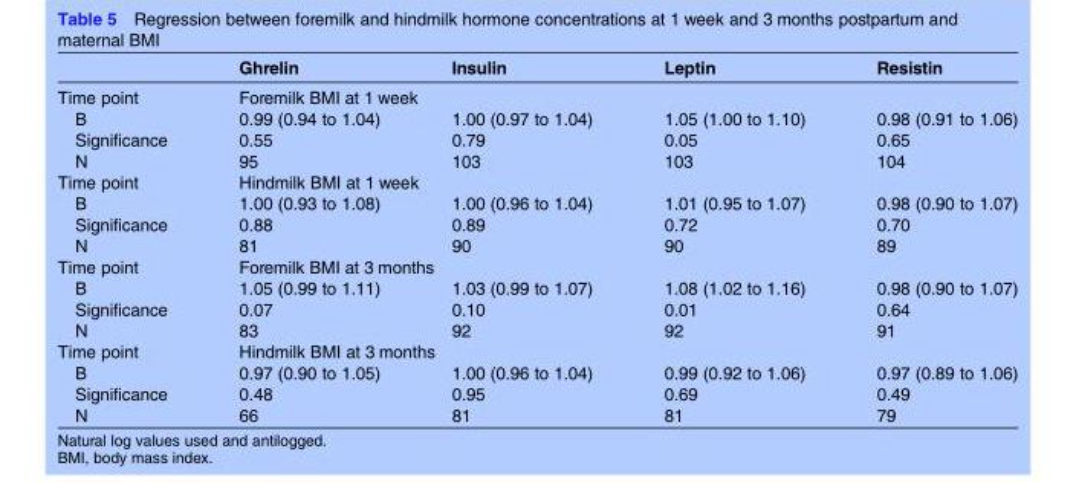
<table><thead><tr><td></td><td>Ghrelin</td><td>Insulin</td><td>Leptin</td><td>Resistin</td></tr></thead><tbody><tr><td>Time point</td><td colspan="4">Foremilk BMI at 1 week</td></tr><tr><td>B</td><td>0.99 (0.94 to 1.04)</td><td>1.00 (0.97 to 1.04)</td><td>1.05 (1.00 to 1.10)</td><td>0.98 (0.91 to 1.06)</td></tr><tr><td>Significance</td><td>0.55</td><td>0.79</td><td>0.05</td><td>0.65</td></tr><tr><td>N</td><td>95</td><td>103</td><td>103</td><td>104</td></tr><tr><td>Time point</td><td colspan="4">Hindmilk BMI at 1 week</td></tr><tr><td>B</td><td>1.00 (0.93 to 1.08)</td><td>1.00 (0.96 to 1.04)</td><td>1.01 (0.95 to 1.07)</td><td>0.98 (0.90 to 1.07)</td></tr><tr><td>Significance</td><td>0.88</td><td>0.89</td><td>0.72</td><td>0.70</td></tr><tr><td>N</td><td>81</td><td>90</td><td>90</td><td>89</td></tr><tr><td>Time point</td><td colspan="4">Foremilk BMI at 3 months</td></tr><tr><td>B</td><td>1.05 (0.99 to 1.11)</td><td>1.03 (0.99 to 1.07)</td><td>1.08 (1.02 to 1.16)</td><td>0.98 (0.90 to 1.07)</td></tr><tr><td>Significance</td><td>0.07</td><td>0.10</td><td>0.01</td><td>0.64</td></tr><tr><td>N</td><td>83</td><td>92</td><td>92</td><td>91</td></tr><tr><td>Time point</td><td colspan="4">Hindmilk BMI at 3 months</td></tr><tr><td>B</td><td>0.97 (0.90 to 1.05)</td><td>1.00 (0.96 to 1.04)</td><td>0.99 (0.92 to 1.06)</td><td>0.97 (0.89 to 1.06)</td></tr><tr><td>Significance</td><td>0.48</td><td>0.95</td><td>0.69</td><td>0.49</td></tr><tr><td>N</td><td>66</td><td>81</td><td>81</td><td>79</td></tr></tbody></table>